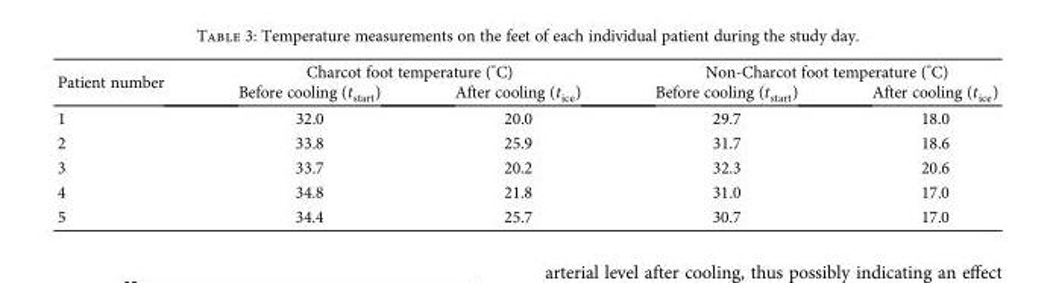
<table><thead><tr><td rowspan="2">Patient number</td><td colspan="2">Charcot foot temperature (°C)</td><td colspan="2">Non-Charcot foot temperature (°C)</td></tr><tr><td>Before cooling (t<sub>start</sub>)</td><td>After cooling (t<sub>ice</sub>)</td><td>Before cooling (t<sub>start</sub>)</td><td>After cooling (t<sub>ice</sub>)</td></tr></thead><tbody><tr><td>1</td><td>32.0</td><td>20.0</td><td>29.7</td><td>18.0</td></tr><tr><td>2</td><td>33.8</td><td>25.9</td><td>31.7</td><td>18.6</td></tr><tr><td>3</td><td>33.7</td><td>20.2</td><td>32.3</td><td>20.6</td></tr><tr><td>4</td><td>34.8</td><td>21.8</td><td>31.0</td><td>17.0</td></tr><tr><td>5</td><td>34.4</td><td>25.7</td><td>30.7</td><td>17.0</td></tr></tbody></table>